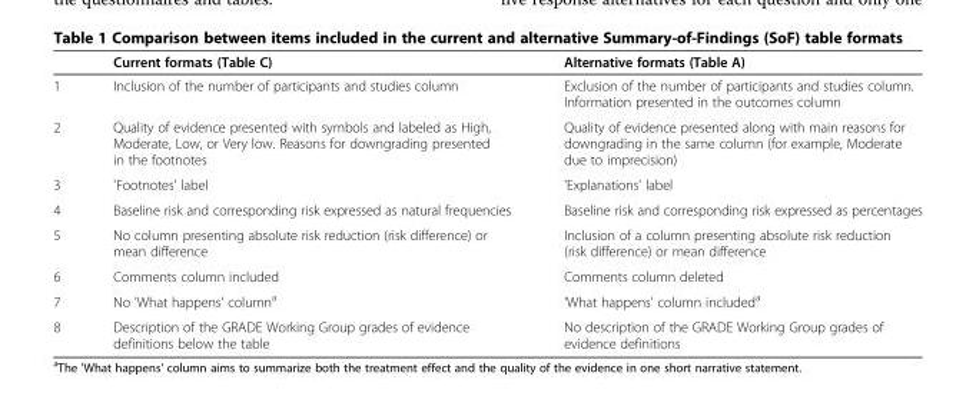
<table><thead><tr><td></td><td>Current formats (Table C)</td><td>Alternative formats (Table A)</td></tr></thead><tbody><tr><td>1</td><td>Inclusion of the number of participants and studies column</td><td>Exclusion of the number of participants and studies column. Information presented in the outcomes column</td></tr><tr><td>2</td><td>Quality of evidence presented with symbols and labeled as High, Moderate, Low, or Very low. Reasons for downgrading presented in the footnotes</td><td>Quality of evidence presented along with main reasons for downgrading in the same column (for example, Moderate due to imprecision)</td></tr><tr><td>3</td><td>&#x27;Footnotes&#x27; label</td><td>&#x27;Explanations&#x27; label</td></tr><tr><td>4</td><td>Baseline risk and corresponding risk expressed as natural frequencies</td><td>Baseline risk and corresponding risk expressed as percentages</td></tr><tr><td>5</td><td>No column presenting absolute risk reduction (risk difference) or mean difference</td><td>Inclusion of a column presenting absolute risk reduction (risk difference) or mean difference</td></tr><tr><td>6</td><td>Comments column included</td><td>Comments column deleted</td></tr><tr><td>7</td><td>No &#x27;What happens&#x27; column<sup>a</sup></td><td>&#x27;What happens&#x27; column included<sup>a</sup></td></tr><tr><td>8</td><td>Description of the GRADE Working Group grades of evidence definitions below the table</td><td>No description of the GRADE Working Group grades of evidence definitions</td></tr></tbody></table>